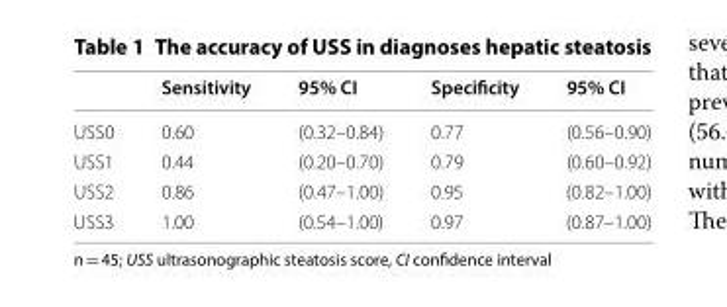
<table><thead><tr><td></td><td>Sensitivity</td><td>95% CI</td><td>Specificity</td><td>95% CI</td></tr></thead><tbody><tr><td>USS0</td><td>0.60</td><td>(0.32–0.84)</td><td>0.77</td><td>(0.56–0.90)</td></tr><tr><td>USS1</td><td>0.44</td><td>(0.20–0.70)</td><td>0.79</td><td>(0.60–0.92)</td></tr><tr><td>USS2</td><td>0.86</td><td>(0.47–1.00)</td><td>0.95</td><td>(0.82–1.00)</td></tr><tr><td>USS3</td><td>1.00</td><td>(0.54–1.00)</td><td>0.97</td><td>(0.87–1.00)</td></tr></tbody></table>